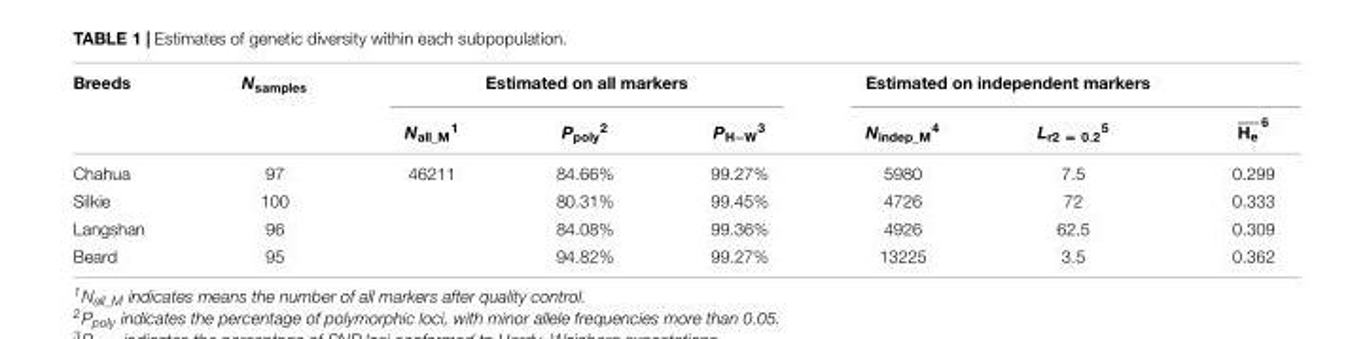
<table><thead><tr><td rowspan="2">Breeds</td><td rowspan="2">N<sub>samples</sub></td><td colspan="3">Estimated on all markers</td><td colspan="3">Estimated on independent markers</td></tr><tr><td>N<sub>all_M</sub><sup>1</sup></td><td>P<sub>poly</sub><sup>2</sup></td><td>P<sub>H−W</sub><sup>3</sup></td><td>N<sub>indep_M</sub><sup>4</sup></td><td>L<sub>r2 = 0.2</sub><sup>5</sup></td><td>He 6</td></tr></thead><tbody><tr><td>Chahua</td><td>97</td><td>46211</td><td>84.66%</td><td>99.27%</td><td>5980</td><td>7.5</td><td>0.299</td></tr><tr><td>Silkie</td><td>100</td><td></td><td>80.31%</td><td>99.45%</td><td>4726</td><td>72</td><td>0.333</td></tr><tr><td>Langshan</td><td>96</td><td></td><td>84.08%</td><td>99.36%</td><td>4926</td><td>62.5</td><td>0.309</td></tr><tr><td>Beard</td><td>95</td><td></td><td>94.82%</td><td>99.27%</td><td>13225</td><td>3.5</td><td>0.362</td></tr></tbody></table>